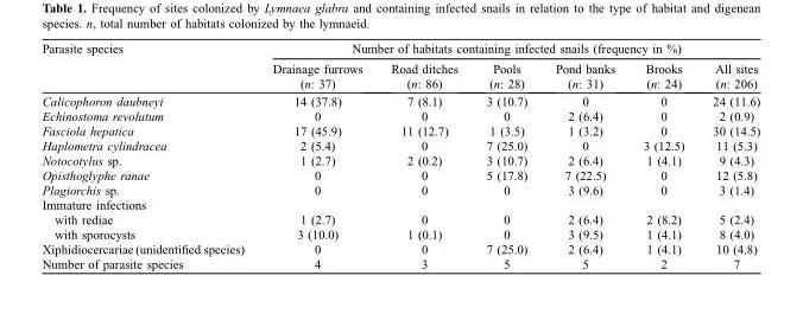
<table><thead><tr><td rowspan="2">Parasite species</td><td colspan="6">Number of habitats containing infected snails (frequency in %)</td></tr><tr><td>Drainage furrows (n: 37)</td><td>Road ditches (n: 86)</td><td>Pools (n: 28)</td><td>Pond banks (n: 31)</td><td>Brooks (n: 24)</td><td>All sites (n: 206)</td></tr></thead><tbody><tr><td>Calicophoron daubneyi</td><td>14 (37.8)</td><td>7 (8.1)</td><td>3 (10.7)</td><td>0</td><td>0</td><td>24 (11.6)</td></tr><tr><td>Echinostoma revolutum</td><td>0</td><td>0</td><td>0</td><td>2 (6.4)</td><td>0</td><td>2 (0.9)</td></tr><tr><td>Fasciola hepatica</td><td>17 (45.9)</td><td>11 (12.7)</td><td>1 (3.5)</td><td>1 (3.2)</td><td>0</td><td>30 (14.5)</td></tr><tr><td>Haplometra cylindracea</td><td>2 (5.4)</td><td>0</td><td>7 (25.0)</td><td>0</td><td>3 (12.5)</td><td>11 (5.3)</td></tr><tr><td>Notocotylus sp.</td><td>1 (2.7)</td><td>2 (0.2)</td><td>3 (10.7)</td><td>2 (6.4)</td><td>1 (4.1)</td><td>9 (4.3)</td></tr><tr><td>Opisthoglyphe ranae</td><td>0</td><td>0</td><td>5 (17.8)</td><td>7 (22.5)</td><td>0</td><td>12 (5.8)</td></tr><tr><td>Plagiorchis sp.</td><td>0</td><td>0</td><td>0</td><td>3 (9.6)</td><td>0</td><td>3 (1.4)</td></tr><tr><td colspan="7">Immature infections</td></tr><tr><td>with rediae</td><td>1 (2.7)</td><td>0</td><td>0</td><td>2 (6.4)</td><td>2 (8.2)</td><td>5 (2.4)</td></tr><tr><td>with sporocysts</td><td>3 (10.0)</td><td>1 (0.1)</td><td>0</td><td>3 (9.5)</td><td>1 (4.1)</td><td>8 (4.0)</td></tr><tr><td>Xiphidiocercariae (unidentified species)</td><td>0</td><td>0</td><td>7 (25.0)</td><td>2 (6.4)</td><td>1 (4.1)</td><td>10 (4.8)</td></tr><tr><td>Number of parasite species</td><td>4</td><td>3</td><td>5</td><td>5</td><td>2</td><td>7</td></tr></tbody></table>